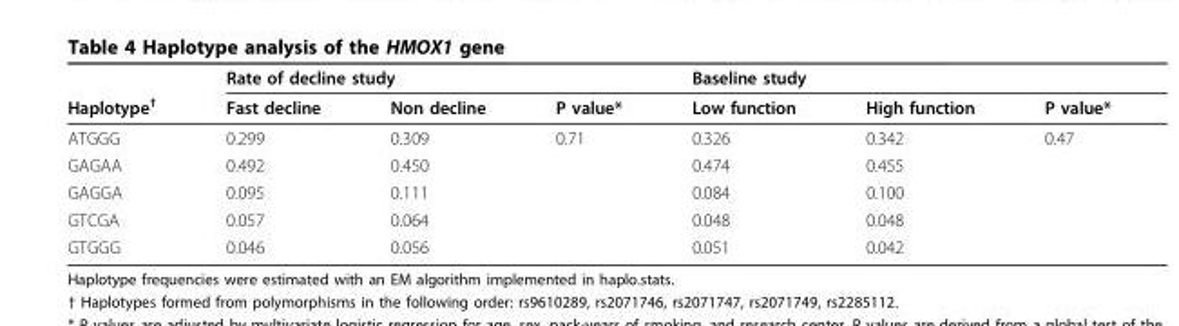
<table><thead><tr><td rowspan="2">Haplotype<sup>†</sup></td><td colspan="2">Rate of decline study</td><td rowspan="2">P value*</td><td colspan="2">Baseline study</td><td rowspan="2">P value*</td></tr><tr><td>Fast decline</td><td>Non decline</td><td>Low function</td><td>High function</td></tr></thead><tbody><tr><td>ATGGG</td><td>0.299</td><td>0.309</td><td>0.71</td><td>0.326</td><td>0.342</td><td>0.47</td></tr><tr><td>GAGAA</td><td>0.492</td><td>0.450</td><td></td><td>0.474</td><td>0.455</td><td></td></tr><tr><td>GAGGA</td><td>0.095</td><td>0.111</td><td></td><td>0.084</td><td>0.100</td><td></td></tr><tr><td>GTCGA</td><td>0.057</td><td>0.064</td><td></td><td>0.048</td><td>0.048</td><td></td></tr><tr><td>GTGGG</td><td>0.046</td><td>0.056</td><td></td><td>0.051</td><td>0.042</td><td></td></tr></tbody></table>